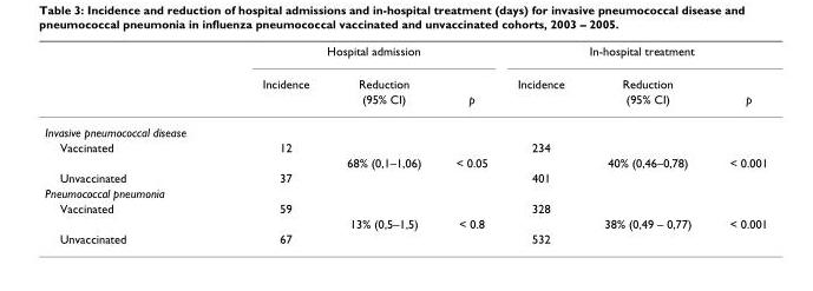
<table><thead><tr><td rowspan="3"></td><td colspan="3">Hospital admission</td><td colspan="3">In-hospital treatment</td></tr><tr><td rowspan="2">Incidence</td><td rowspan="2">Reduction (95% CI)</td><td rowspan="2">p</td><td rowspan="2">Incidence</td><td rowspan="2">Reduction (95% CI)</td><td rowspan="2">p</td></tr><tr></tr></thead><tbody><tr><td colspan="7">Invasive pneumococcal disease</td></tr><tr><td rowspan="2">Vaccinated</td><td>12</td><td></td><td></td><td>234</td><td></td><td></td></tr><tr><td></td><td>68% (0,1–1,06)</td><td>&lt; 0.05</td><td></td><td>40% (0,46–0,78)</td><td>&lt; 0.001</td></tr><tr><td>Unvaccinated</td><td>37</td><td></td><td></td><td>401</td><td></td><td></td></tr><tr><td colspan="7">Pneumococcal pneumonia</td></tr><tr><td rowspan="2">Vaccinated</td><td>59</td><td></td><td></td><td>328</td><td></td><td></td></tr><tr><td></td><td>13% (0,5–1,5)</td><td>&lt; 0.8</td><td></td><td>38% (0,49 – 0,77)</td><td>&lt; 0.001</td></tr><tr><td>Unvaccinated</td><td>67</td><td></td><td></td><td>532</td><td></td><td></td></tr></tbody></table>